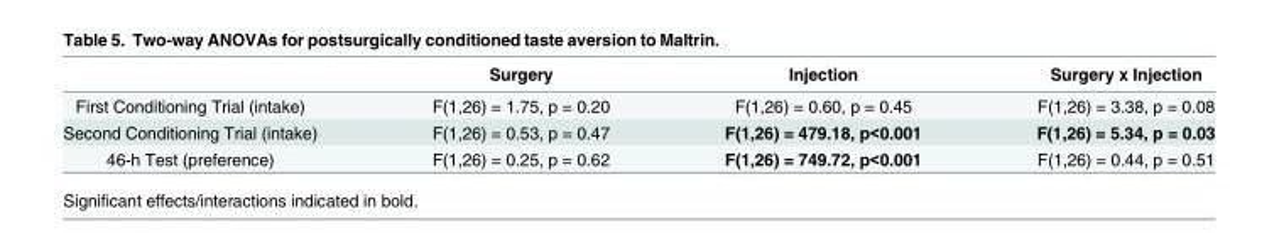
<table><thead><tr><td></td><td>Surgery</td><td>Injection</td><td>Surgery x Injection</td></tr></thead><tbody><tr><td>First Conditioning Trial (intake)</td><td>F(1,26) = 1.75, p = 0.20</td><td>F(1,26) = 0.60, p = 0.45</td><td>F(1,26) = 3.38, p = 0.08</td></tr><tr><td>Second Conditioning Trial (intake)</td><td>F(1,26) = 0.53, p = 0.47</td><td>F(1,26) = 479.18, p&lt;0.001</td><td>F(1,26) = 5.34, p = 0.03</td></tr><tr><td>46-h Test (preference)</td><td>F(1,26) = 0.25, p = 0.62</td><td>F(1,26) = 749.72, p&lt;0.001</td><td>F(1,26) = 0.44, p = 0.51</td></tr></tbody></table>